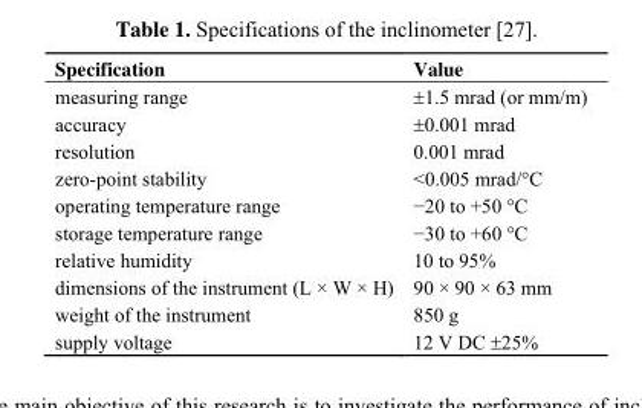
<table><thead><tr><td>Specification</td><td>Value</td></tr></thead><tbody><tr><td>measuring range</td><td>±1.5 mrad (or mm/m)</td></tr><tr><td>accuracy</td><td>±0.001 mrad</td></tr><tr><td>resolution</td><td>0.001 mrad</td></tr><tr><td>zero-point stability</td><td>&lt;0.005 mrad/°C</td></tr><tr><td>operating temperature range</td><td>−20 to +50 °C</td></tr><tr><td>storage temperature range</td><td>−30 to +60 °C</td></tr><tr><td>relative humidity</td><td>10 to 95%</td></tr><tr><td>dimensions of the instrument (L × W × H)</td><td>90 × 90 × 63 mm</td></tr><tr><td>weight of the instrument</td><td>850 g</td></tr><tr><td>supply voltage</td><td>12 V DC ±25%</td></tr></tbody></table>